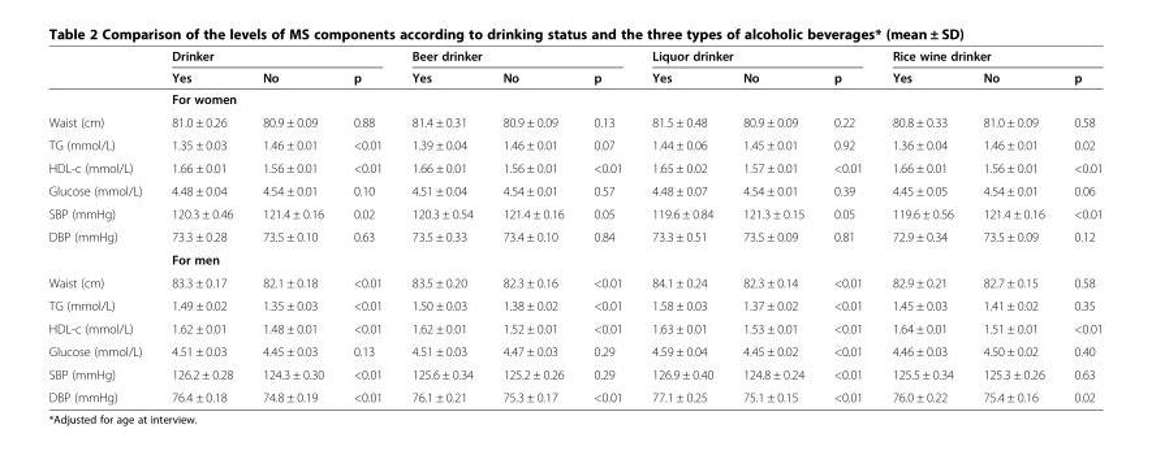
<table><thead><tr><td rowspan="2"></td><td colspan="3">Drinker</td><td colspan="3">Beer drinker</td><td colspan="3">Liquor drinker</td><td colspan="3">Rice wine drinker</td></tr><tr><td>Yes</td><td>No</td><td>p</td><td>Yes</td><td>No</td><td>p</td><td>Yes</td><td>No</td><td>p</td><td>Yes</td><td>No</td><td>p</td></tr></thead><tbody><tr><td></td><td colspan="12">For women</td></tr><tr><td>Waist (cm)</td><td>81.0 ± 0.26</td><td>80.9 ± 0.09</td><td>0.88</td><td>81.4 ± 0.31</td><td>80.9 ± 0.09</td><td>0.13</td><td>81.5 ± 0.48</td><td>80.9 ± 0.09</td><td>0.22</td><td>80.8 ± 0.33</td><td>81.0 ± 0.09</td><td>0.58</td></tr><tr><td>TG (mmol/L)</td><td>1.35 ± 0.03</td><td>1.46 ± 0.01</td><td>&lt;0.01</td><td>1.39 ± 0.04</td><td>1.46 ± 0.01</td><td>0.07</td><td>1.44 ± 0.06</td><td>1.45 ± 0.01</td><td>0.92</td><td>1.36 ± 0.04</td><td>1.46 ± 0.01</td><td>0.02</td></tr><tr><td>HDL-c (mmol/L)</td><td>1.66 ± 0.01</td><td>1.56 ± 0.01</td><td>&lt;0.01</td><td>1.66 ± 0.01</td><td>1.56 ± 0.01</td><td>&lt;0.01</td><td>1.65 ± 0.02</td><td>1.57 ± 0.01</td><td>&lt;0.01</td><td>1.66 ± 0.01</td><td>1.56 ± 0.01</td><td>&lt;0.01</td></tr><tr><td>Glucose (mmol/L)</td><td>4.48 ± 0.04</td><td>4.54 ± 0.01</td><td>0.10</td><td>4.51 ± 0.04</td><td>4.54 ± 0.01</td><td>0.57</td><td>4.48 ± 0.07</td><td>4.54 ± 0.01</td><td>0.39</td><td>4.45 ± 0.05</td><td>4.54 ± 0.01</td><td>0.06</td></tr><tr><td>SBP (mmHg)</td><td>120.3 ± 0.46</td><td>121.4 ± 0.16</td><td>0.02</td><td>120.3 ± 0.54</td><td>121.4 ± 0.16</td><td>0.05</td><td>119.6 ± 0.84</td><td>121.3 ± 0.15</td><td>0.05</td><td>119.6 ± 0.56</td><td>121.4 ± 0.16</td><td>&lt;0.01</td></tr><tr><td rowspan="2">DBP (mmHg)</td><td>73.3 ± 0.28</td><td>73.5 ± 0.10</td><td>0.63</td><td>73.5 ± 0.33</td><td>73.4 ± 0.10</td><td>0.84</td><td>73.3 ± 0.51</td><td>73.5 ± 0.09</td><td>0.81</td><td>72.9 ± 0.34</td><td>73.5 ± 0.09</td><td>0.12</td></tr><tr><td colspan="12">For men</td></tr><tr><td>Waist (cm)</td><td>83.3 ± 0.17</td><td>82.1 ± 0.18</td><td>&lt;0.01</td><td>83.5 ± 0.20</td><td>82.3 ± 0.16</td><td>&lt;0.01</td><td>84.1 ± 0.24</td><td>82.3 ± 0.14</td><td>&lt;0.01</td><td>82.9 ± 0.21</td><td>82.7 ± 0.15</td><td>0.58</td></tr><tr><td>TG (mmol/L)</td><td>1.49 ± 0.02</td><td>1.35 ± 0.03</td><td>&lt;0.01</td><td>1.50 ± 0.03</td><td>1.38 ± 0.02</td><td>&lt;0.01</td><td>1.58 ± 0.03</td><td>1.37 ± 0.02</td><td>&lt;0.01</td><td>1.45 ± 0.03</td><td>1.41 ± 0.02</td><td>0.35</td></tr><tr><td>HDL-c (mmol/L)</td><td>1.62 ± 0.01</td><td>1.48 ± 0.01</td><td>&lt;0.01</td><td>1.62 ± 0.01</td><td>1.52 ± 0.01</td><td>&lt;0.01</td><td>1.63 ± 0.01</td><td>1.53 ± 0.01</td><td>&lt;0.01</td><td>1.64 ± 0.01</td><td>1.51 ± 0.01</td><td>&lt;0.01</td></tr><tr><td>Glucose (mmol/L)</td><td>4.51 ± 0.03</td><td>4.45 ± 0.03</td><td>0.13</td><td>4.51 ± 0.03</td><td>4.47 ± 0.03</td><td>0.29</td><td>4.59 ± 0.04</td><td>4.45 ± 0.02</td><td>&lt;0.01</td><td>4.46 ± 0.03</td><td>4.50 ± 0.02</td><td>0.40</td></tr><tr><td>SBP (mmHg)</td><td>126.2 ± 0.28</td><td>124.3 ± 0.30</td><td>&lt;0.01</td><td>125.6 ± 0.34</td><td>125.2 ± 0.26</td><td>0.29</td><td>126.9 ± 0.40</td><td>124.8 ± 0.24</td><td>&lt;0.01</td><td>125.5 ± 0.34</td><td>125.3 ± 0.26</td><td>0.63</td></tr><tr><td>DBP (mmHg)</td><td>76.4 ± 0.18</td><td>74.8 ± 0.19</td><td>&lt;0.01</td><td>76.1 ± 0.21</td><td>75.3 ± 0.17</td><td>&lt;0.01</td><td>77.1 ± 0.25</td><td>75.1 ± 0.15</td><td>&lt;0.01</td><td>76.0 ± 0.22</td><td>75.4 ± 0.16</td><td>0.02</td></tr></tbody></table>